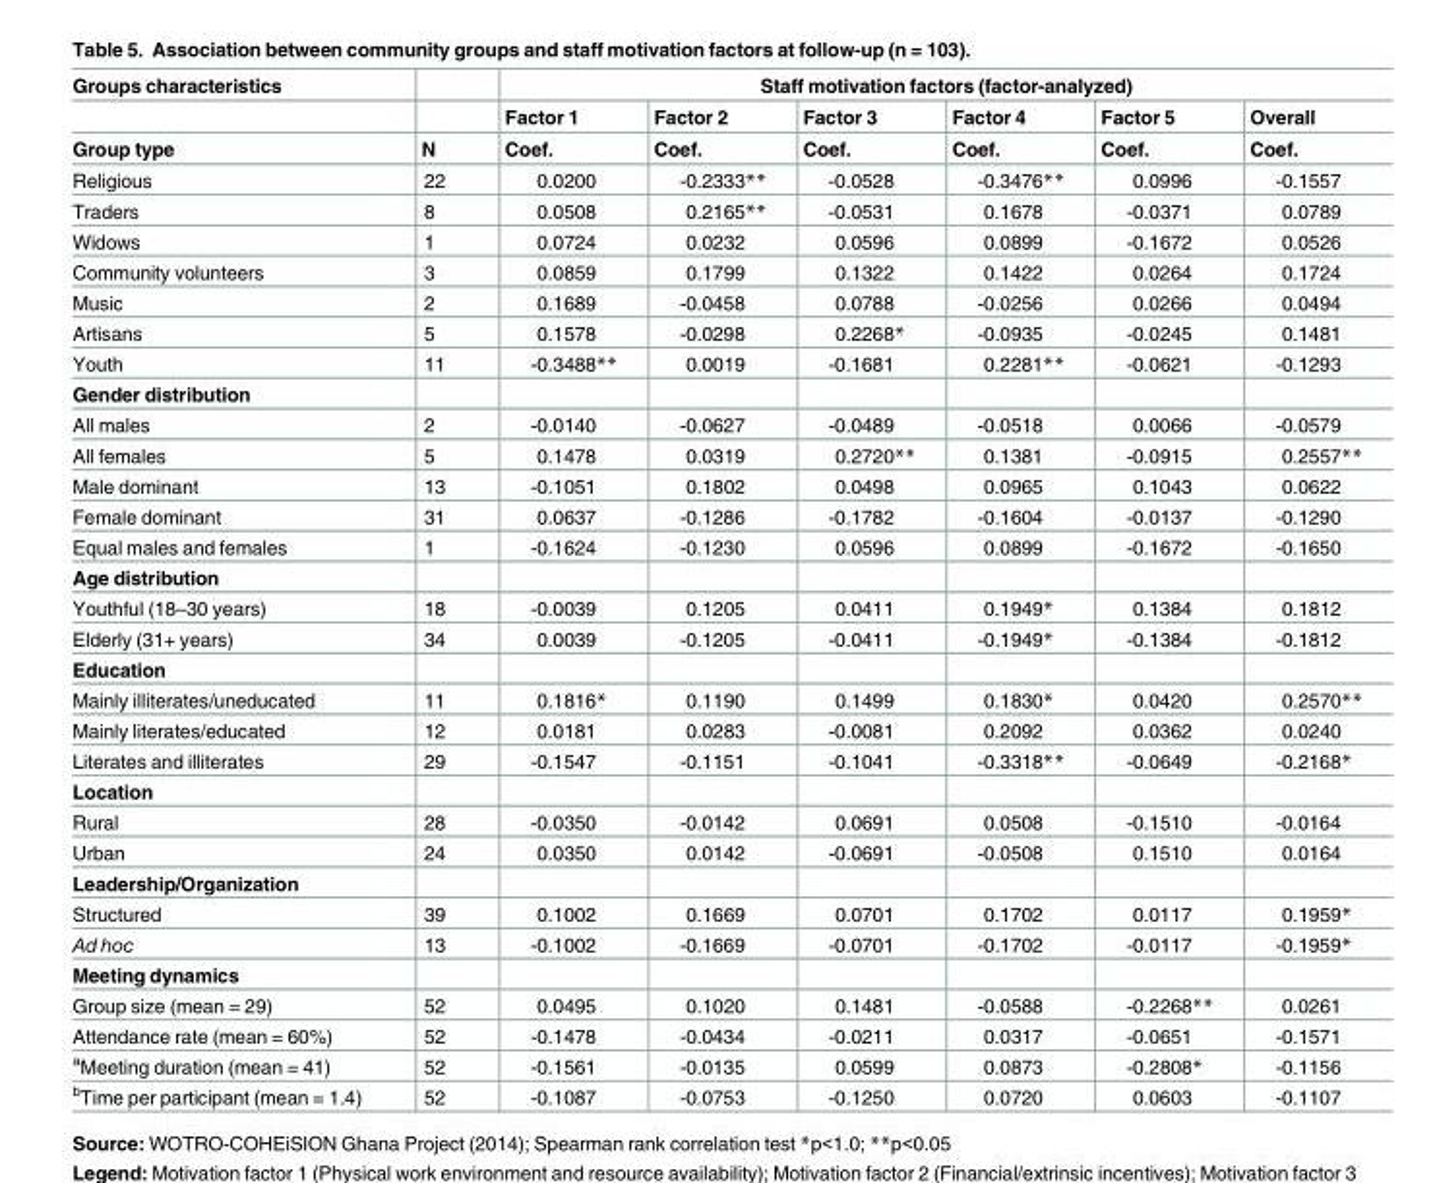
<table><thead><tr><td rowspan="3">Groups characteristics Group type</td><td rowspan="3">N</td><td colspan="6">Staff motivation factors (factor-analyzed)</td></tr><tr><td rowspan="2">Factor 1 Coef.</td><td rowspan="2">Factor 2 Coef.</td><td rowspan="2">Factor 3 Coef.</td><td rowspan="2">Factor 4 Coef.</td><td rowspan="2">Factor 5 Coef.</td><td rowspan="2">Overall Coef.</td></tr><tr></tr></thead><tbody><tr><td>Religious</td><td>22</td><td>0.0200</td><td>-0.2333**</td><td>-0.0528</td><td>-0.3476**</td><td>0.0996</td><td>-0.1557</td></tr><tr><td>Traders</td><td>8</td><td>0.0508</td><td>0.2165**</td><td>-0.0531</td><td>0.1678</td><td>-0.0371</td><td>0.0789</td></tr><tr><td>Widows</td><td>1</td><td>0.0724</td><td>0.0232</td><td>0.0596</td><td>0.0899</td><td>-0.1672</td><td>0.0526</td></tr><tr><td>Community volunteers</td><td>3</td><td>0.0859</td><td>0.1799</td><td>0.1322</td><td>0.1422</td><td>0.0264</td><td>0.1724</td></tr><tr><td>Music</td><td>2</td><td>0.1689</td><td>-0.0458</td><td>0.0788</td><td>-0.0256</td><td>0.0266</td><td>0.0494</td></tr><tr><td>Artisans</td><td>5</td><td>0.1578</td><td>-0.0298</td><td>0.2268*</td><td>-0.0935</td><td>-0.0245</td><td>0.1481</td></tr><tr><td>Youth</td><td>11</td><td>-0.3488**</td><td>0.0019</td><td>-0.1681</td><td>0.2281**</td><td>-0.0621</td><td>-0.1293</td></tr><tr><td colspan="8">Gender distribution</td></tr><tr><td>All males</td><td>2</td><td>-0.0140</td><td>-0.0627</td><td>-0.0489</td><td>-0.0518</td><td>0.0066</td><td>-0.0579</td></tr><tr><td>All females</td><td>5</td><td>0.1478</td><td>0.0319</td><td>0.2720**</td><td>0.1381</td><td>-0.0915</td><td>0.2557**</td></tr><tr><td>Male dominant</td><td>13</td><td>-0.1051</td><td>0.1802</td><td>0.0498</td><td>0.0965</td><td>0.1043</td><td>0.0622</td></tr><tr><td>Female dominant</td><td>31</td><td>0.0637</td><td>-0.1286</td><td>-0.1782</td><td>-0.1604</td><td>-0.0137</td><td>-0.1290</td></tr><tr><td>Equal males and females</td><td>1</td><td>-0.1624</td><td>-0.1230</td><td>0.0596</td><td>0.0899</td><td>-0.1672</td><td>-0.1650</td></tr><tr><td colspan="8">Age distribution</td></tr><tr><td>Youthful (18–30 years)</td><td>18</td><td>-0.0039</td><td>0.1205</td><td>0.0411</td><td>0.1949*</td><td>0.1384</td><td>0.1812</td></tr><tr><td>Elderly (31+ years)</td><td>34</td><td>0.0039</td><td>-0.1205</td><td>-0.0411</td><td>-0.1949*</td><td>-0.1384</td><td>-0.1812</td></tr><tr><td colspan="8">Education</td></tr><tr><td>Mainly illiterates/uneducated</td><td>11</td><td>0.1816*</td><td>0.1190</td><td>0.1499</td><td>0.1830*</td><td>0.0420</td><td>0.2570**</td></tr><tr><td>Mainly literates/educated</td><td>12</td><td>0.0181</td><td>0.0283</td><td>-0.0081</td><td>0.2092</td><td>0.0362</td><td>0.0240</td></tr><tr><td>Literates and illiterates</td><td>29</td><td>-0.1547</td><td>-0.1151</td><td>-0.1041</td><td>-0.3318**</td><td>-0.0649</td><td>-0.2168*</td></tr><tr><td colspan="8">Location</td></tr><tr><td>Rural</td><td>28</td><td>-0.0350</td><td>-0.0142</td><td>0.0691</td><td>0.0508</td><td>-0.1510</td><td>-0.0164</td></tr><tr><td>Urban</td><td>24</td><td>0.0350</td><td>0.0142</td><td>-0.0691</td><td>-0.0508</td><td>0.1510</td><td>0.0164</td></tr><tr><td colspan="8">Leadership/Organization</td></tr><tr><td>Structured</td><td>39</td><td>0.1002</td><td>0.1669</td><td>0.0701</td><td>0.1702</td><td>0.0117</td><td>0.1959*</td></tr><tr><td>Ad hoc</td><td>13</td><td>-0.1002</td><td>-0.1669</td><td>-0.0701</td><td>-0.1702</td><td>-0.0117</td><td>-0.1959*</td></tr><tr><td colspan="8">Meeting dynamics</td></tr><tr><td>Group size (mean = 29)</td><td>52</td><td>0.0495</td><td>0.1020</td><td>0.1481</td><td>-0.0588</td><td>-0.2268**</td><td>0.0261</td></tr><tr><td>Attendance rate (mean = 60%)</td><td>52</td><td>-0.1478</td><td>-0.0434</td><td>-0.0211</td><td>0.0317</td><td>-0.0651</td><td>-0.1571</td></tr><tr><td><sup>a</sup>Meeting duration (mean = 41)</td><td>52</td><td>-0.1561</td><td>-0.0135</td><td>0.0599</td><td>0.0873</td><td>-0.2808*</td><td>-0.1156</td></tr><tr><td><sup>b</sup>Time per participant (mean = 1.4)</td><td>52</td><td>-0.1087</td><td>-0.0753</td><td>-0.1250</td><td>0.0720</td><td>0.0603</td><td>-0.1107</td></tr></tbody></table>